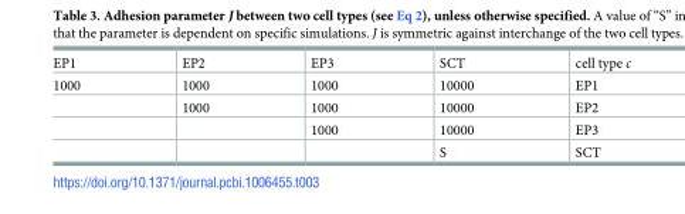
<table><tbody><tr><td>EP1</td><td>EP2</td><td>EP3</td><td>SCT</td><td>cell type c</td></tr><tr><td rowspan="4">1000</td><td>1000</td><td>1000</td><td>10000</td><td>EP1</td></tr><tr><td>1000</td><td>1000</td><td>10000</td><td>EP2</td></tr><tr><td></td><td>1000</td><td>10000</td><td>EP3</td></tr><tr><td></td><td></td><td>S</td><td>SCT</td></tr></tbody></table>